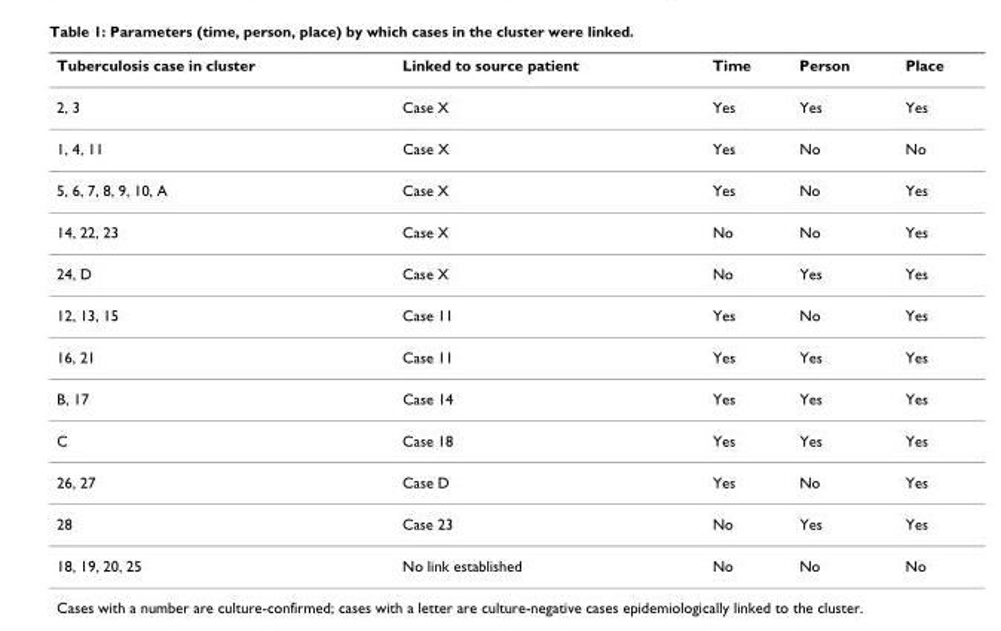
<table><thead><tr><td>Tuberculosis case in cluster</td><td>Linked to source patient</td><td>Time</td><td>Person</td><td>Place</td></tr></thead><tbody><tr><td>2, 3</td><td>Case X</td><td>Yes</td><td>Yes</td><td>Yes</td></tr><tr><td>1, 4, 11</td><td>Case X</td><td>Yes</td><td>No</td><td>No</td></tr><tr><td>5, 6, 7, 8, 9, 10, A</td><td>Case X</td><td>Yes</td><td>No</td><td>Yes</td></tr><tr><td>14, 22, 23</td><td>Case X</td><td>No</td><td>No</td><td>Yes</td></tr><tr><td>24, D</td><td>Case X</td><td>No</td><td>Yes</td><td>Yes</td></tr><tr><td>12, 13, 15</td><td>Case 11</td><td>Yes</td><td>No</td><td>Yes</td></tr><tr><td>16, 21</td><td>Case 11</td><td>Yes</td><td>Yes</td><td>Yes</td></tr><tr><td>B, 17</td><td>Case 14</td><td>Yes</td><td>Yes</td><td>Yes</td></tr><tr><td>C</td><td>Case 18</td><td>Yes</td><td>Yes</td><td>Yes</td></tr><tr><td>26, 27</td><td>Case D</td><td>Yes</td><td>No</td><td>Yes</td></tr><tr><td>28</td><td>Case 23</td><td>No</td><td>Yes</td><td>Yes</td></tr><tr><td>18, 19, 20, 25</td><td>No link established</td><td>No</td><td>No</td><td>No</td></tr></tbody></table>